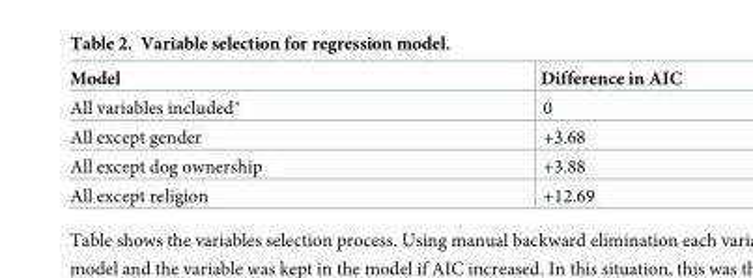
<table><thead><tr><td>Model</td><td>Difference in AIC</td></tr></thead><tbody><tr><td>All variables included*</td><td>0</td></tr><tr><td>All except gender</td><td>+3.68</td></tr><tr><td>All except dog ownership</td><td>+3.88</td></tr><tr><td>All except religion</td><td>+12.69</td></tr></tbody></table>